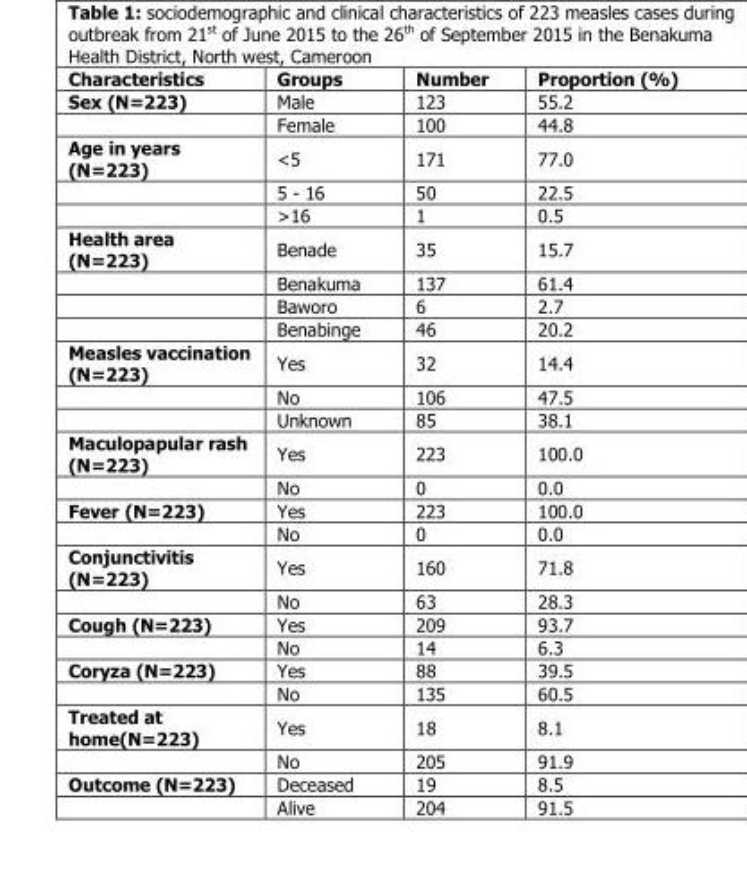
<table><thead><tr><td>Characteristics</td><td>Groups</td><td>Number</td><td>Proportion (%)</td></tr></thead><tbody><tr><td rowspan="2">Sex (N=223)</td><td>Male</td><td>123</td><td>55.2</td></tr><tr><td>Female</td><td>100</td><td>44.8</td></tr><tr><td rowspan="3">Age in years (N=223)</td><td>&lt;5</td><td>171</td><td>77.0</td></tr><tr><td>5 - 16</td><td>50</td><td>22.5</td></tr><tr><td>&gt;16</td><td>1</td><td>0.5</td></tr><tr><td rowspan="4">Health area (N=223)</td><td>Benade</td><td>35</td><td>15.7</td></tr><tr><td>Benakuma</td><td>137</td><td>61.4</td></tr><tr><td>Baworo</td><td>6</td><td>2.7</td></tr><tr><td>Benabinge</td><td>46</td><td>20.2</td></tr><tr><td rowspan="3">Measles vaccination (N=223)</td><td>Yes</td><td>32</td><td>14.4</td></tr><tr><td>No</td><td>106</td><td>47.5</td></tr><tr><td>Unknown</td><td>85</td><td>38.1</td></tr><tr><td rowspan="2">Maculopapular rash (N=223)</td><td>Yes</td><td>223</td><td>100.0</td></tr><tr><td>No</td><td>0</td><td>0.0</td></tr><tr><td rowspan="2">Fever (N=223)</td><td>Yes</td><td>223</td><td>100.0</td></tr><tr><td>No</td><td>0</td><td>0.0</td></tr><tr><td rowspan="2">Conjunctivitis (N=223)</td><td>Yes</td><td>160</td><td>71.8</td></tr><tr><td>No</td><td>63</td><td>28.3</td></tr><tr><td rowspan="2">Cough (N=223)</td><td>Yes</td><td>209</td><td>93.7</td></tr><tr><td>No</td><td>14</td><td>6.3</td></tr><tr><td rowspan="2">Coryza (N=223)</td><td>Yes</td><td>88</td><td>39.5</td></tr><tr><td>No</td><td>135</td><td>60.5</td></tr><tr><td rowspan="2">Treated at home(N=223)</td><td>Yes</td><td>18</td><td>8.1</td></tr><tr><td>No</td><td>205</td><td>91.9</td></tr><tr><td rowspan="2">Outcome (N=223)</td><td>Deceased</td><td>19</td><td>8.5</td></tr><tr><td>Alive</td><td>204</td><td>91.5</td></tr></tbody></table>